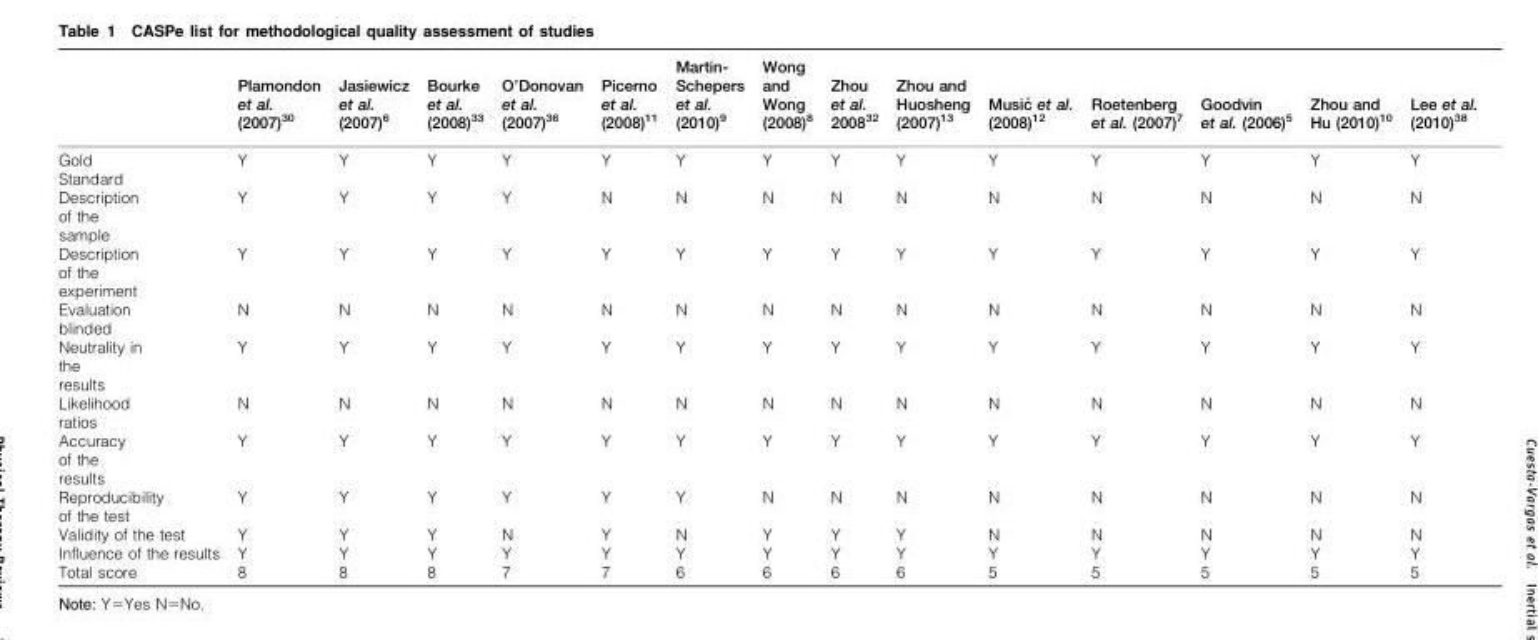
<table><thead><tr><td></td><td>Plamondon et al. (2007)<sup>30</sup></td><td>Jasiewicz et al. (2007)<sup>6</sup></td><td>Bourke et al. (2008)<sup>33</sup></td><td>O’Donovan et al. (2007)<sup>36</sup></td><td>Picerno et al. (2008)<sup>11</sup></td><td>Martin- Schepers et al. (2010)<sup>9</sup></td><td>Wong and Wong (2008)<sup>8</sup></td><td>Zhou et al. 2008<sup>32</sup></td><td>Zhou and Huosheng (2007)<sup>13</sup></td><td>Music´ et al. (2008)12</td><td>Roetenberg et al. (2007)<sup>7</sup></td><td>Goodvin et al. (2006)<sup>5</sup></td><td>Zhou and Hu (2010)<sup>10</sup></td><td>Lee et al. (2010)<sup>38</sup></td></tr></thead><tbody><tr><td>Gold Standard</td><td>Y</td><td>Y</td><td>Y</td><td>Y</td><td>Y</td><td>Y</td><td>Y</td><td>Y</td><td>Y</td><td>Y</td><td>Y</td><td>Y</td><td>Y</td><td>Y</td></tr><tr><td>Description of the sample</td><td>Y</td><td>Y</td><td>Y</td><td>Y</td><td>N</td><td>N</td><td>N</td><td>N</td><td>N</td><td>N</td><td>N</td><td>N</td><td>N</td><td>N</td></tr><tr><td>Description of the experiment</td><td>Y</td><td>Y</td><td>Y</td><td>Y</td><td>Y</td><td>Y</td><td>Y</td><td>Y</td><td>Y</td><td>Y</td><td>Y</td><td>Y</td><td>Y</td><td>Y</td></tr><tr><td>Evaluation blinded</td><td>N</td><td>N</td><td>N</td><td>N</td><td>N</td><td>N</td><td>N</td><td>N</td><td>N</td><td>N</td><td>N</td><td>N</td><td>N</td><td>N</td></tr><tr><td>Neutrality in the results</td><td>Y</td><td>Y</td><td>Y</td><td>Y</td><td>Y</td><td>Y</td><td>Y</td><td>Y</td><td>Y</td><td>Y</td><td>Y</td><td>Y</td><td>Y</td><td>Y</td></tr><tr><td>Likelihood ratios</td><td>N</td><td>N</td><td>N</td><td>N</td><td>N</td><td>N</td><td>N</td><td>N</td><td>N</td><td>N</td><td>N</td><td>N</td><td>N</td><td>N</td></tr><tr><td>Accuracy of the results</td><td>Y</td><td>Y</td><td>Y</td><td>Y</td><td>Y</td><td>Y</td><td>Y</td><td>Y</td><td>Y</td><td>Y</td><td>Y</td><td>Y</td><td>Y</td><td>Y</td></tr><tr><td>Reproducibility of the test</td><td>Y</td><td>Y</td><td>Y</td><td>Y</td><td>Y</td><td>Y</td><td>N</td><td>N</td><td>N</td><td>N</td><td>N</td><td>N</td><td>N</td><td>N</td></tr><tr><td>Validity of the test</td><td>Y</td><td>Y</td><td>Y</td><td>N</td><td>Y</td><td>N</td><td>Y</td><td>Y</td><td>Y</td><td>N</td><td>N</td><td>N</td><td>N</td><td>N</td></tr><tr><td>Influence of the results</td><td>Y</td><td>Y</td><td>Y</td><td>Y</td><td>Y</td><td>Y</td><td>Y</td><td>Y</td><td>Y</td><td>Y</td><td>Y</td><td>Y</td><td>Y</td><td>Y</td></tr><tr><td>Total score</td><td>8</td><td>8</td><td>8</td><td>7</td><td>7</td><td>6</td><td>6</td><td>6</td><td>6</td><td>5</td><td>5</td><td>5</td><td>5</td><td>5</td></tr></tbody></table>